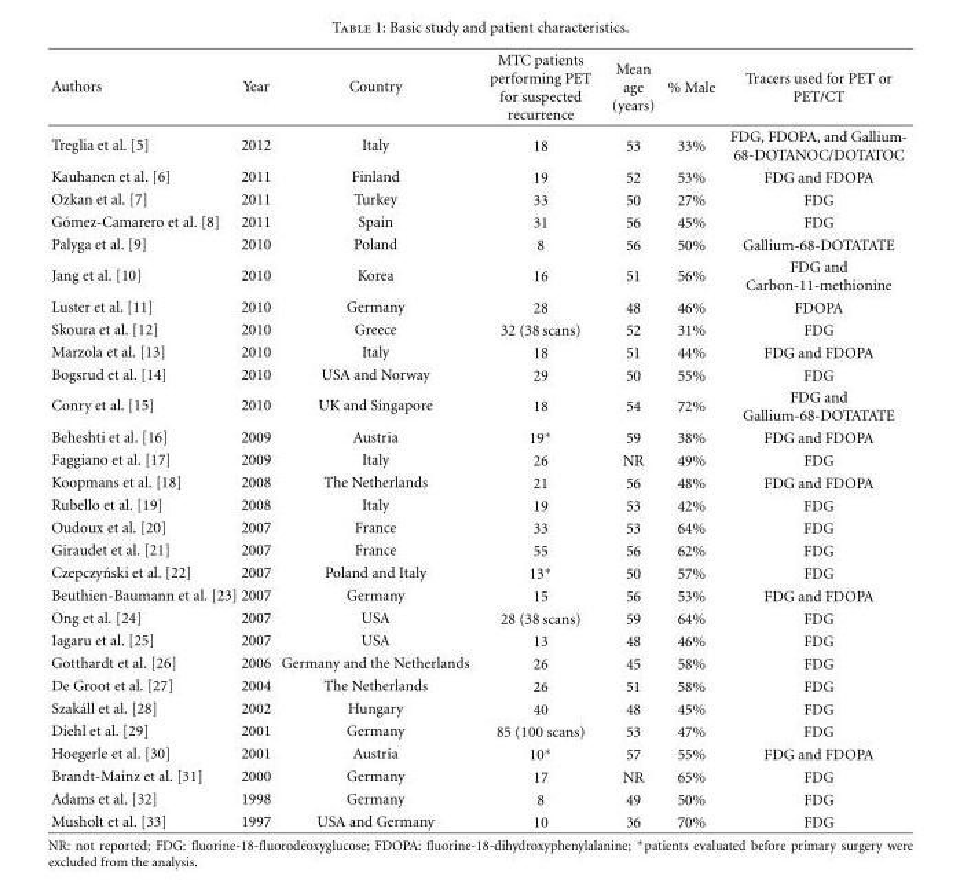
<table><thead><tr><td>Authors</td><td>Year</td><td>Country</td><td>MTC patients performing PET for suspected recurrence</td><td>Mean age (years)</td><td>% Male</td><td>Tracers used for PET or PET/CT</td></tr></thead><tbody><tr><td>Treglia et al. [5]</td><td>2012</td><td>Italy</td><td>18</td><td>53</td><td>33%</td><td>FDG, FDOPA, and Gallium- 68-DOTANOC/DOTATOC</td></tr><tr><td>Kauhanen et al. [6]</td><td>2011</td><td>Finland</td><td>19</td><td>52</td><td>53%</td><td>FDG and FDOPA</td></tr><tr><td>Ozkan et al. [7]</td><td>2011</td><td>Turkey</td><td>33</td><td>50</td><td>27%</td><td>FDG</td></tr><tr><td>G´omez-Camarero et al. [8]</td><td>2011</td><td>Spain</td><td>31</td><td>56</td><td>45%</td><td>FDG</td></tr><tr><td>Palyga et al. [9]</td><td>2010</td><td>Poland</td><td>8</td><td>56</td><td>50%</td><td>Gallium-68-DOTATATE</td></tr><tr><td>Jang et al. [10]</td><td>2010</td><td>Korea</td><td>16</td><td>51</td><td>56%</td><td>FDG and Carbon-11-methionine</td></tr><tr><td>Luster et al. [11]</td><td>2010</td><td>Germany</td><td>28</td><td>48</td><td>46%</td><td>FDOPA</td></tr><tr><td>Skoura et al. [12]</td><td>2010</td><td>Greece</td><td>32 (38 scans)</td><td>52</td><td>31%</td><td>FDG</td></tr><tr><td>Marzola et al. [13]</td><td>2010</td><td>Italy</td><td>18</td><td>51</td><td>44%</td><td>FDG and FDOPA</td></tr><tr><td>Bogsrud et al. [14]</td><td>2010</td><td>USA and Norway</td><td>29</td><td>50</td><td>55%</td><td>FDG</td></tr><tr><td>Conry et al. [15]</td><td>2010</td><td>UK and Singapore</td><td>18</td><td>54</td><td>72%</td><td>FDG and Gallium-68-DOTATATE</td></tr><tr><td>Beheshti et al. [16]</td><td>2009</td><td>Austria</td><td>19∗</td><td>59</td><td>38%</td><td>FDG and FDOPA</td></tr><tr><td>Faggiano et al. [17]</td><td>2009</td><td>Italy</td><td>26</td><td>NR</td><td>49%</td><td>FDG</td></tr><tr><td>Koopmans et al. [18]</td><td>2008</td><td>The Netherlands</td><td>21</td><td>56</td><td>48%</td><td>FDG and FDOPA</td></tr><tr><td>Rubello et al. [19]</td><td>2008</td><td>Italy</td><td>19</td><td>53</td><td>42%</td><td>FDG</td></tr><tr><td>Oudoux et al. [20]</td><td>2007</td><td>France</td><td>33</td><td>53</td><td>64%</td><td>FDG</td></tr><tr><td>Giraudet et al. [21]</td><td>2007</td><td>France</td><td>55</td><td>56</td><td>62%</td><td>FDG</td></tr><tr><td>Czepczy´nski et al. [22]</td><td>2007</td><td>Poland and Italy</td><td>13∗</td><td>50</td><td>57%</td><td>FDG</td></tr><tr><td>Beuthien-Baumann et al. [23]</td><td>2007</td><td>Germany</td><td>15</td><td>56</td><td>53%</td><td>FDG and FDOPA</td></tr><tr><td>Ong et al. [24]</td><td>2007</td><td>USA</td><td>28 (38 scans)</td><td>59</td><td>64%</td><td>FDG</td></tr><tr><td>Iagaru et al. [25]</td><td>2007</td><td>USA</td><td>13</td><td>48</td><td>46%</td><td>FDG</td></tr><tr><td>Gotthardt et al. [26]</td><td>2006</td><td>Germany and the Netherlands</td><td>26</td><td>45</td><td>58%</td><td>FDG</td></tr><tr><td>De Groot et al. [27]</td><td>2004</td><td>The Netherlands</td><td>26</td><td>51</td><td>58%</td><td>FDG</td></tr><tr><td>Szak´all et al. [28]</td><td>2002</td><td>Hungary</td><td>40</td><td>48</td><td>45%</td><td>FDG</td></tr><tr><td>Diehl et al. [29]</td><td>2001</td><td>Germany</td><td>85 (100 scans)</td><td>53</td><td>47%</td><td>FDG</td></tr><tr><td>Hoegerle et al. [30]</td><td>2001</td><td>Austria</td><td>10∗</td><td>57</td><td>55%</td><td>FDG and FDOPA</td></tr><tr><td>Brandt-Mainz et al. [31]</td><td>2000</td><td>Germany</td><td>17</td><td>NR</td><td>65%</td><td>FDG</td></tr><tr><td>Adams et al. [32]</td><td>1998</td><td>Germany</td><td>8</td><td>49</td><td>50%</td><td>FDG</td></tr><tr><td>Musholt et al. [33]</td><td>1997</td><td>USA and Germany</td><td>10</td><td>36</td><td>70%</td><td>FDG</td></tr></tbody></table>